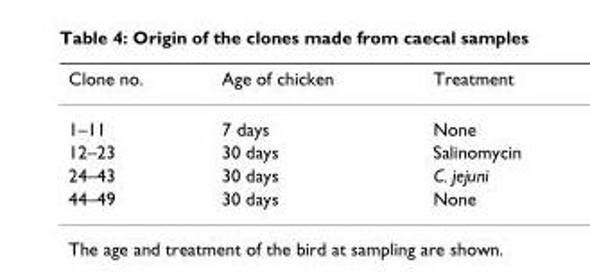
<table><thead><tr><td>Clone no.</td><td>Age of chicken</td><td>Treatment</td></tr></thead><tbody><tr><td>1–11</td><td>7 days</td><td>None</td></tr><tr><td>12–23</td><td>30 days</td><td>Salinomycin</td></tr><tr><td>24–43</td><td>30 days</td><td>C. jejuni</td></tr><tr><td>44–49</td><td>30 days</td><td>None</td></tr></tbody></table>